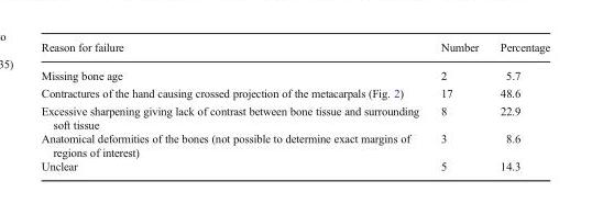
<table><thead><tr><td>Reason for failure</td><td>Number</td><td>Percentage</td></tr></thead><tbody><tr><td>Missing bone age</td><td>2</td><td>5.7</td></tr><tr><td>Contractures of the hand causing crossed projection of the metacarpals (Fig. 2)</td><td>17</td><td>48.6</td></tr><tr><td>Excessive sharpening giving lack of contrast between bone tissue and surrounding soft tissue</td><td>8</td><td>22.9</td></tr><tr><td>Anatomical deformities of the bones (not possible to determine exact margins of regions of interest)</td><td>3</td><td>8.6</td></tr><tr><td>Unclear</td><td>5</td><td>14.3</td></tr></tbody></table>